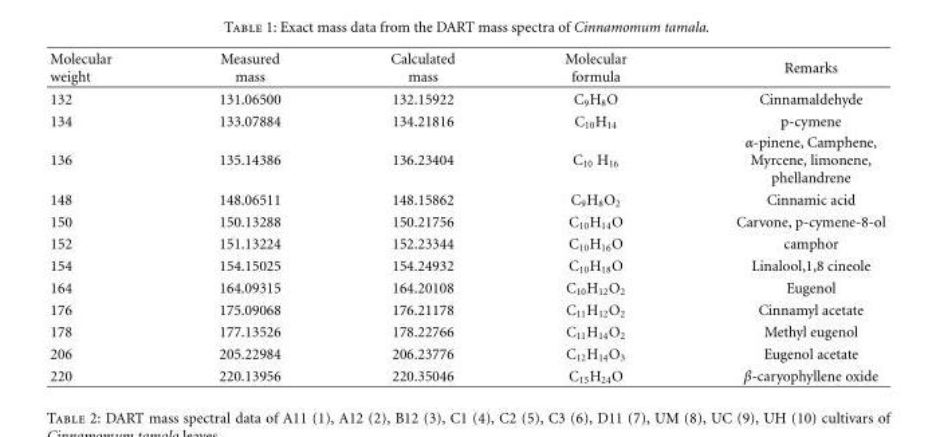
<table><thead><tr><td>Molecular weight</td><td>Measured mass</td><td>Calculated mass</td><td>Molecular formula</td><td>Remarks</td></tr></thead><tbody><tr><td>132</td><td>131.06500</td><td>132.15922</td><td>C<sub>9</sub>H<sub>8</sub>O</td><td>Cinnamaldehyde</td></tr><tr><td>134</td><td>133.07884</td><td>134.21816</td><td>C<sub>10</sub>H<sub>14</sub></td><td>p-cymene</td></tr><tr><td>136</td><td>135.14386</td><td>136.23404</td><td>C<sub>10</sub> H<sub>16</sub></td><td>α-pinene, Camphene, Myrcene, limonene, phellandrene</td></tr><tr><td>148</td><td>148.06511</td><td>148.15862</td><td>C<sub>9</sub>H<sub>8</sub>O<sub>2</sub></td><td>Cinnamic acid</td></tr><tr><td>150</td><td>150.13288</td><td>150.21756</td><td>C<sub>10</sub>H<sub>14</sub>O</td><td>Carvone, p-cymene-8-ol</td></tr><tr><td>152</td><td>151.13224</td><td>152.23344</td><td>C<sub>10</sub>H<sub>16</sub>O</td><td>camphor</td></tr><tr><td>154</td><td>154.15025</td><td>154.24932</td><td>C<sub>10</sub>H<sub>18</sub>O</td><td>Linalool,1,8 cineole</td></tr><tr><td>164</td><td>164.09315</td><td>164.20108</td><td>C<sub>10</sub>H<sub>12</sub>O<sub>2</sub></td><td>Eugenol</td></tr><tr><td>176</td><td>175.09068</td><td>176.21178</td><td>C<sub>11</sub>H<sub>12</sub>O<sub>2</sub></td><td>Cinnamyl acetate</td></tr><tr><td>178</td><td>177.13526</td><td>178.22766</td><td>C<sub>11</sub>H<sub>14</sub>O<sub>2</sub></td><td>Methyl eugenol</td></tr><tr><td>206</td><td>205.22984</td><td>206.23776</td><td>C<sub>12</sub>H<sub>14</sub>O<sub>3</sub></td><td>Eugenol acetate</td></tr><tr><td>220</td><td>220.13956</td><td>220.35046</td><td>C<sub>15</sub>H<sub>24</sub>O</td><td>β-caryophyllene oxide</td></tr></tbody></table>